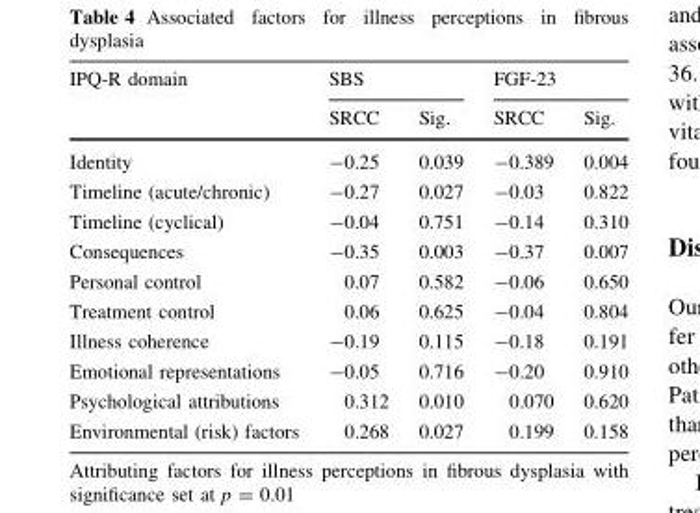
<table><thead><tr><td rowspan="2">IPQ-R domain</td><td colspan="2">SBS</td><td colspan="2">FGF-23</td></tr><tr><td>SRCC</td><td>Sig.</td><td>SRCC</td><td>Sig.</td></tr></thead><tbody><tr><td>Identity</td><td>-0.25</td><td>0.039</td><td>-0.389</td><td>0.004</td></tr><tr><td>Timeline (acute/chronic)</td><td>-0.27</td><td>0.027</td><td>-0.03</td><td>0.822</td></tr><tr><td>Timeline (cyclical)</td><td>-0.04</td><td>0.751</td><td>-0.14</td><td>0.310</td></tr><tr><td>Consequences</td><td>-0.35</td><td>0.003</td><td>-0.37</td><td>0.007</td></tr><tr><td>Personal control</td><td>0.07</td><td>0.582</td><td>-0.06</td><td>0.650</td></tr><tr><td>Treatment control</td><td>0.06</td><td>0.625</td><td>-0.04</td><td>0.804</td></tr><tr><td>Illness coherence</td><td>-0.19</td><td>0.115</td><td>-0.18</td><td>0.191</td></tr><tr><td>Emotional representations</td><td>-0.05</td><td>0.716</td><td>-0.20</td><td>0.910</td></tr><tr><td>Psychological attributions</td><td>0.312</td><td>0.010</td><td>0.070</td><td>0.620</td></tr><tr><td>Environmental (risk) factors</td><td>0.268</td><td>0.027</td><td>0.199</td><td>0.158</td></tr></tbody></table>